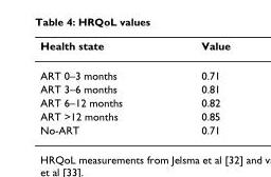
<table><thead><tr><td>Health state</td><td>Value</td></tr></thead><tbody><tr><td>ART 0–3 months</td><td>0.71</td></tr><tr><td>ART 3–6 months</td><td>0.81</td></tr><tr><td>ART 6–12 months</td><td>0.82</td></tr><tr><td>ART &gt;12 months</td><td>0.85</td></tr><tr><td>No-ART</td><td>0.71</td></tr></tbody></table>